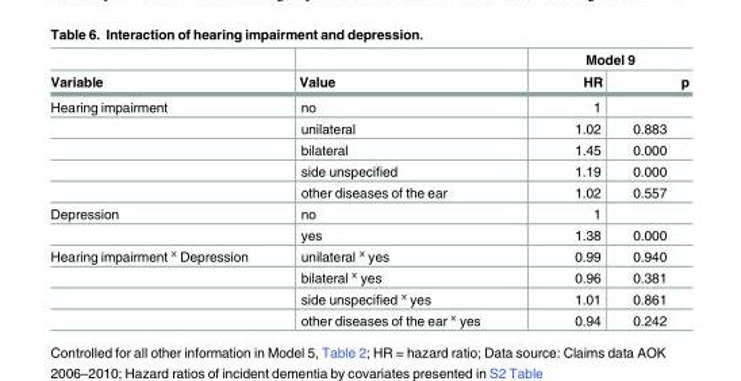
<table><thead><tr><td rowspan="2">Variable</td><td rowspan="2">Value</td><td colspan="2">Model 9</td></tr><tr><td>HR</td><td>p</td></tr></thead><tbody><tr><td rowspan="5">Hearing impairment</td><td>no</td><td>1</td><td></td></tr><tr><td>unilateral</td><td>1.02</td><td>0.883</td></tr><tr><td>bilateral</td><td>1.45</td><td>0.000</td></tr><tr><td>side unspecified</td><td>1.19</td><td>0.000</td></tr><tr><td>other diseases of the ear</td><td>1.02</td><td>0.557</td></tr><tr><td rowspan="2">Depression</td><td>no</td><td>1</td><td></td></tr><tr><td>yes</td><td>1.38</td><td>0.000</td></tr><tr><td rowspan="4">Hearing impairment ˣ Depression</td><td>unilateral ˣ yes</td><td>0.99</td><td>0.940</td></tr><tr><td>bilateral ˣ yes</td><td>0.96</td><td>0.381</td></tr><tr><td>side unspecified ˣ yes</td><td>1.01</td><td>0.861</td></tr><tr><td>other diseases of the ear ˣ yes</td><td>0.94</td><td>0.242</td></tr></tbody></table>